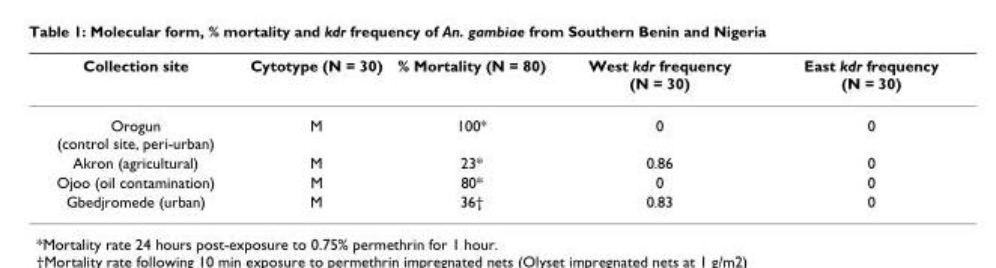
<table><thead><tr><td>Collection site</td><td>Cytotype (N = 30)</td><td>% Mortality (N = 80)</td><td>West kdr frequency (N = 30)</td><td>East kdr frequency (N = 30)</td></tr></thead><tbody><tr><td>Orogun (control site, peri-urban)</td><td>M</td><td>100*</td><td>0</td><td>0</td></tr><tr><td>Akron (agricultural)</td><td>M</td><td>23*</td><td>0.86</td><td>0</td></tr><tr><td>Ojoo (oil contamination)</td><td>M</td><td>80*</td><td>0</td><td>0</td></tr><tr><td>Gbedjromede (urban)</td><td>M</td><td>36†</td><td>0.83</td><td>0</td></tr></tbody></table>